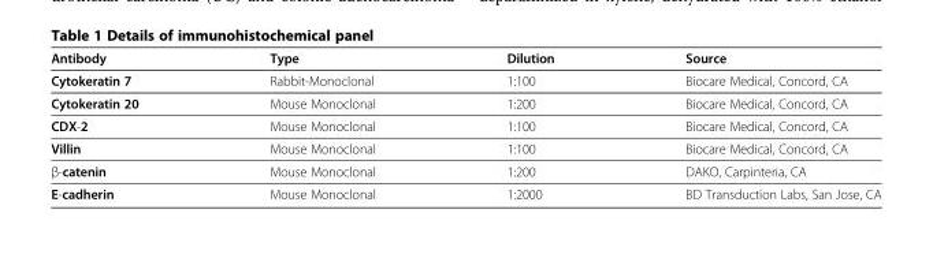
<table><thead><tr><td>Antibody</td><td>Type</td><td>Dilution</td><td>Source</td></tr></thead><tbody><tr><td>Cytokeratin 7</td><td>Rabbit-Monoclonal</td><td>1:100</td><td>Biocare Medical, Concord, CA</td></tr><tr><td>Cytokeratin 20</td><td>Mouse Monoclonal</td><td>1:200</td><td>Biocare Medical, Concord, CA</td></tr><tr><td>CDX-2</td><td>Mouse Monoclonal</td><td>1:100</td><td>Biocare Medical, Concord, CA</td></tr><tr><td>Villin</td><td>Mouse Monoclonal</td><td>1:100</td><td>Biocare Medical, Concord, CA</td></tr><tr><td>β-catenin</td><td>Mouse Monoclonal</td><td>1:200</td><td>DAKO, Carpinteria, CA</td></tr><tr><td>E-cadherin</td><td>Mouse Monoclonal</td><td>1:2000</td><td>BD Transduction Labs, San Jose, CA</td></tr></tbody></table>